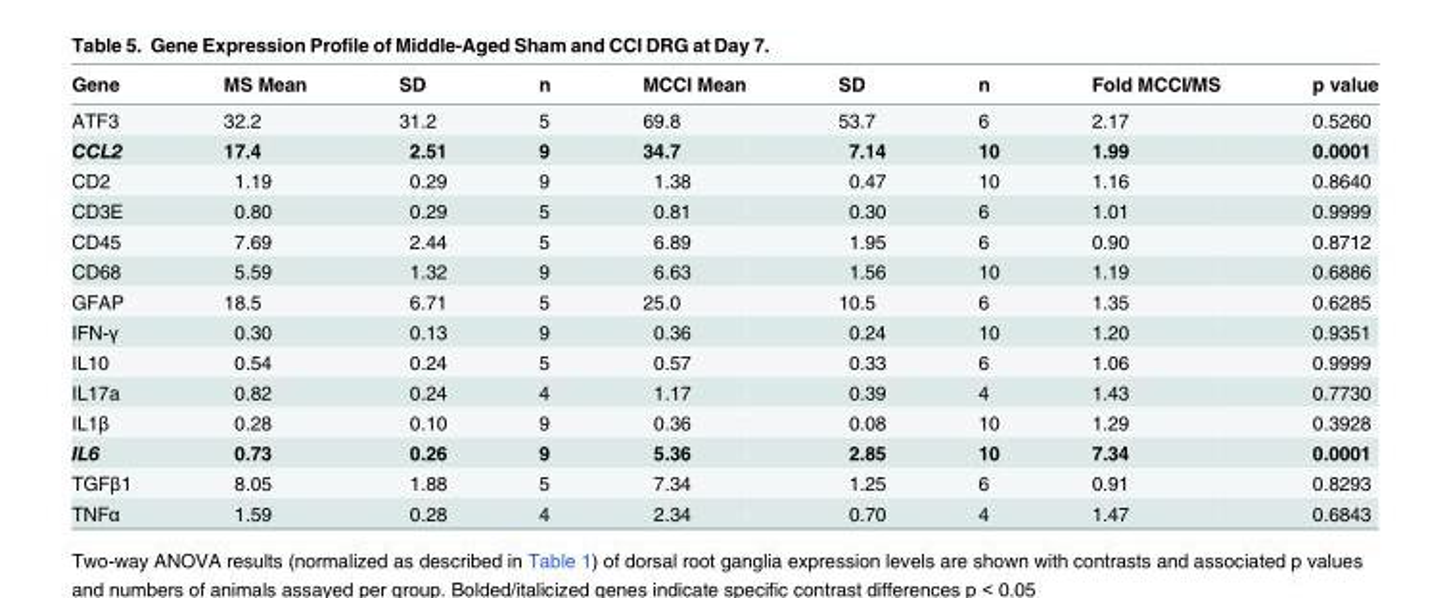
<table><thead><tr><td>Gene</td><td>MS Mean</td><td>SD</td><td>n</td><td>MCCI Mean</td><td>SD</td><td>n</td><td>Fold MCCI/MS</td><td>p value</td></tr></thead><tbody><tr><td>ATF3</td><td>32.2</td><td>31.2</td><td>5</td><td>69.8</td><td>53.7</td><td>6</td><td>2.17</td><td>0.5260</td></tr><tr><td>CCL2</td><td>17.4</td><td>2.51</td><td>9</td><td>34.7</td><td>7.14</td><td>10</td><td>1.99</td><td>0.0001</td></tr><tr><td>CD2</td><td>1.19</td><td>0.29</td><td>9</td><td>1.38</td><td>0.47</td><td>10</td><td>1.16</td><td>0.8640</td></tr><tr><td>CD3E</td><td>0.80</td><td>0.29</td><td>5</td><td>0.81</td><td>0.30</td><td>6</td><td>1.01</td><td>0.9999</td></tr><tr><td>CD45</td><td>7.69</td><td>2.44</td><td>5</td><td>6.89</td><td>1.95</td><td>6</td><td>0.90</td><td>0.8712</td></tr><tr><td>CD68</td><td>5.59</td><td>1.32</td><td>9</td><td>6.63</td><td>1.56</td><td>10</td><td>1.19</td><td>0.6886</td></tr><tr><td>GFAP</td><td>18.5</td><td>6.71</td><td>5</td><td>25.0</td><td>10.5</td><td>6</td><td>1.35</td><td>0.6285</td></tr><tr><td>IFN-γ</td><td>0.30</td><td>0.13</td><td>9</td><td>0.36</td><td>0.24</td><td>10</td><td>1.20</td><td>0.9351</td></tr><tr><td>IL10</td><td>0.54</td><td>0.24</td><td>5</td><td>0.57</td><td>0.33</td><td>6</td><td>1.06</td><td>0.9999</td></tr><tr><td>IL17a</td><td>0.82</td><td>0.24</td><td>4</td><td>1.17</td><td>0.39</td><td>4</td><td>1.43</td><td>0.7730</td></tr><tr><td>IL1β</td><td>0.28</td><td>0.10</td><td>9</td><td>0.36</td><td>0.08</td><td>10</td><td>1.29</td><td>0.3928</td></tr><tr><td>IL6</td><td>0.73</td><td>0.26</td><td>9</td><td>5.36</td><td>2.85</td><td>10</td><td>7.34</td><td>0.0001</td></tr><tr><td>TGFβ1</td><td>8.05</td><td>1.88</td><td>5</td><td>7.34</td><td>1.25</td><td>6</td><td>0.91</td><td>0.8293</td></tr><tr><td>TNFα</td><td>1.59</td><td>0.28</td><td>4</td><td>2.34</td><td>0.70</td><td>4</td><td>1.47</td><td>0.6843</td></tr></tbody></table>